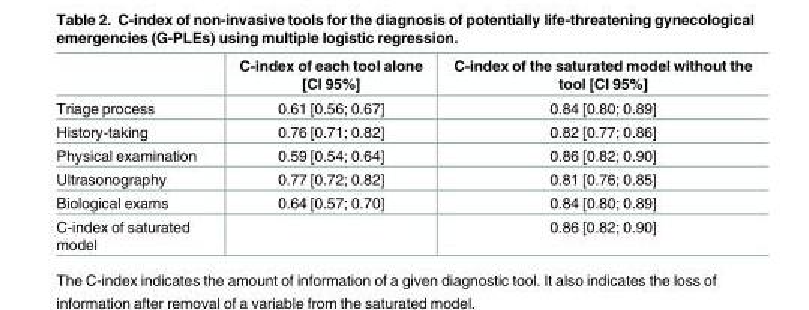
<table><thead><tr><td></td><td>C-index of each tool alone [CI 95%]</td><td>C-index of the saturated model without the tool [CI 95%]</td></tr></thead><tbody><tr><td>Triage process</td><td>0.61 [0.56; 0.67]</td><td>0.84 [0.80; 0.89]</td></tr><tr><td>History-taking</td><td>0.76 [0.71; 0.82]</td><td>0.82 [0.77; 0.86]</td></tr><tr><td>Physical examination</td><td>0.59 [0.54; 0.64]</td><td>0.86 [0.82; 0.90]</td></tr><tr><td>Ultrasonography</td><td>0.77 [0.72; 0.82]</td><td>0.81 [0.76; 0.85]</td></tr><tr><td>Biological exams</td><td>0.64 [0.57; 0.70]</td><td>0.84 [0.80; 0.89]</td></tr><tr><td>C-index of saturated model</td><td></td><td>0.86 [0.82; 0.90]</td></tr></tbody></table>